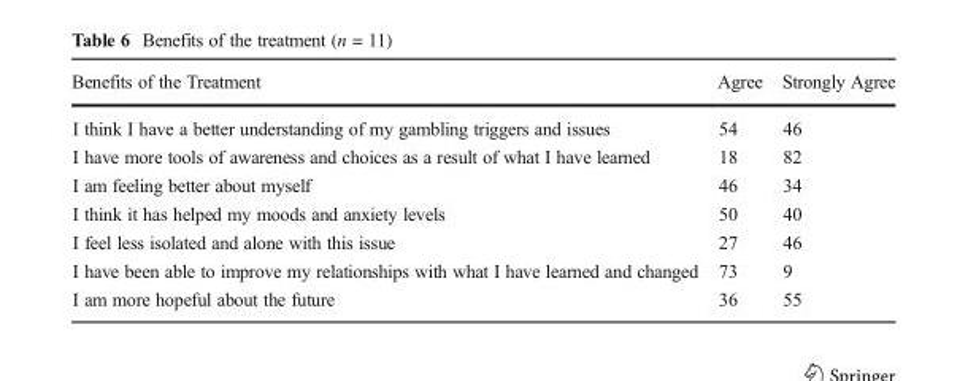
<table><thead><tr><td>Benefits of the Treatment</td><td>Agree</td><td>Strongly Agree</td></tr></thead><tbody><tr><td>I think I have a better understanding of my gambling triggers and issues</td><td>54</td><td>46</td></tr><tr><td>I have more tools of awareness and choices as a result of what I have learned</td><td>18</td><td>82</td></tr><tr><td>I am feeling better about myself</td><td>46</td><td>34</td></tr><tr><td>I think it has helped my moods and anxiety levels</td><td>50</td><td>40</td></tr><tr><td>I feel less isolated and alone with this issue</td><td>27</td><td>46</td></tr><tr><td>I have been able to improve my relationships with what I have learned and changed</td><td>73</td><td>9</td></tr><tr><td>I am more hopeful about the future</td><td>36</td><td>55</td></tr></tbody></table>